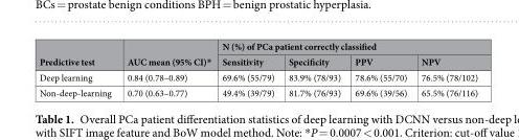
<table><thead><tr><td rowspan="2">Predictive test</td><td rowspan="2">AUC mean (95% CI)*</td><td colspan="4">N (%) of PCa patient correctly classified</td></tr><tr><td>Sensitivity</td><td>Specificity</td><td>PPV</td><td>NPV</td></tr></thead><tbody><tr><td>Deep learning</td><td>0.84 (0.78–0.89)</td><td>69.6% (55/79)</td><td>83.9% (78/93)</td><td>78.6% (55/70)</td><td>76.5% (78/102)</td></tr><tr><td>Non-deep-learning</td><td>0.70 (0.63–0.77)</td><td>49.4% (39/79)</td><td>81.7% (76/93)</td><td>69.6% (39/56)</td><td>65.5% (76/116)</td></tr></tbody></table>